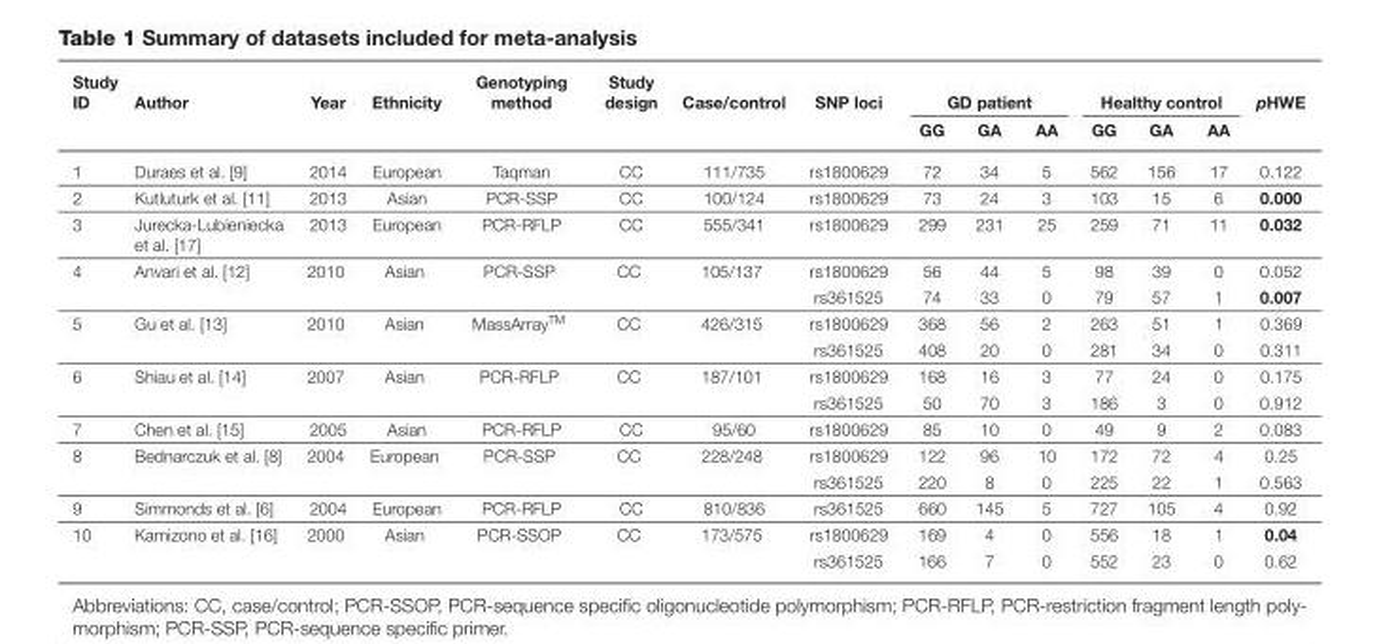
<table><thead><tr><td rowspan="2">Study ID</td><td rowspan="2">Author</td><td rowspan="2">Year</td><td rowspan="2">Ethnicity</td><td rowspan="2">Genotyping method</td><td rowspan="2">Study design</td><td rowspan="2">Case/control</td><td rowspan="2">SNP loci</td><td colspan="3">GD patient</td><td colspan="3">Healthy control</td><td rowspan="2">pHWE</td></tr><tr><td>GG</td><td>GA</td><td>AA</td><td>GG</td><td>GA</td><td>AA</td></tr></thead><tbody><tr><td>1</td><td>Duraes et al. [9]</td><td>2014</td><td>European</td><td>Taqman</td><td>CC</td><td>111/735</td><td>rs1800629</td><td>72</td><td>34</td><td>5</td><td>562</td><td>156</td><td>17</td><td>0.122</td></tr><tr><td>2</td><td>Kutluturk et al. [11]</td><td>2013</td><td>Asian</td><td>PCR-SSP</td><td>CC</td><td>100/124</td><td>rs1800629</td><td>73</td><td>24</td><td>3</td><td>103</td><td>15</td><td>6</td><td>0.000</td></tr><tr><td>3</td><td>Jurecka-Lubieniecka et al. [17]</td><td>2013</td><td>European</td><td>PCR-RFLP</td><td>CC</td><td>555/341</td><td>rs1800629</td><td>299</td><td>231</td><td>25</td><td>259</td><td>71</td><td>11</td><td>0.032</td></tr><tr><td rowspan="2">4</td><td rowspan="2">Anvari et al. [12]</td><td rowspan="2">2010</td><td rowspan="2">Asian</td><td rowspan="2">PCR-SSP</td><td rowspan="2">CC</td><td rowspan="2">105/137</td><td>rs1800629</td><td>56</td><td>44</td><td>5</td><td>98</td><td>39</td><td>0</td><td>0.052</td></tr><tr><td>rs361525</td><td>74</td><td>33</td><td>0</td><td>79</td><td>57</td><td>1</td><td>0.007</td></tr><tr><td rowspan="2">5</td><td rowspan="2">Gu et al. [13]</td><td rowspan="2">2010</td><td rowspan="2">Asian</td><td rowspan="2">MassArrayTM</td><td rowspan="2">CC</td><td rowspan="2">426/315</td><td>rs1800629</td><td>368</td><td>56</td><td>2</td><td>263</td><td>51</td><td>1</td><td>0.369</td></tr><tr><td>rs361525</td><td>408</td><td>20</td><td>0</td><td>281</td><td>34</td><td>0</td><td>0.311</td></tr><tr><td rowspan="2">6</td><td rowspan="2">Shiau et al. [14]</td><td rowspan="2">2007</td><td rowspan="2">Asian</td><td rowspan="2">PCR-RFLP</td><td rowspan="2">CC</td><td rowspan="2">187/101</td><td>rs1800629</td><td>168</td><td>16</td><td>3</td><td>77</td><td>24</td><td>0</td><td>0.175</td></tr><tr><td>rs361525</td><td>50</td><td>70</td><td>3</td><td>186</td><td>3</td><td>0</td><td>0.912</td></tr><tr><td>7</td><td>Chen et al. [15]</td><td>2005</td><td>Asian</td><td>PCR-RFLP</td><td>CC</td><td>95/60</td><td>rs1800629</td><td>85</td><td>10</td><td>0</td><td>49</td><td>9</td><td>2</td><td>0.083</td></tr><tr><td rowspan="2">8</td><td rowspan="2">Bednarczuk et al. [8]</td><td rowspan="2">2004</td><td rowspan="2">European</td><td rowspan="2">PCR-SSP</td><td rowspan="2">CC</td><td rowspan="2">228/248</td><td>rs1800629</td><td>122</td><td>96</td><td>10</td><td>172</td><td>72</td><td>4</td><td>0.25</td></tr><tr><td>rs361525</td><td>220</td><td>8</td><td>0</td><td>225</td><td>22</td><td>1</td><td>0.563</td></tr><tr><td>9</td><td>Simmonds et al. [6]</td><td>2004</td><td>European</td><td>PCR-RFLP</td><td>CC</td><td>810/836</td><td>rs361525</td><td>660</td><td>145</td><td>5</td><td>727</td><td>105</td><td>4</td><td>0.92</td></tr><tr><td rowspan="2">10</td><td rowspan="2">Kamizono et al. [16]</td><td rowspan="2">2000</td><td rowspan="2">Asian</td><td rowspan="2">PCR-SSOP</td><td rowspan="2">CC</td><td rowspan="2">173/575</td><td>rs1800629</td><td>169</td><td>4</td><td>0</td><td>556</td><td>18</td><td>1</td><td>0.04</td></tr><tr><td>rs361525</td><td>166</td><td>7</td><td>0</td><td>552</td><td>23</td><td>0</td><td>0.62</td></tr></tbody></table>